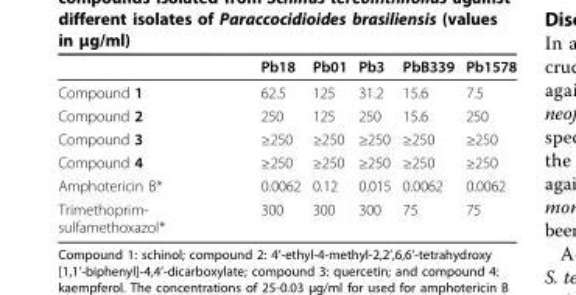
<table><thead><tr><td></td><td>Pb18</td><td>Pb01</td><td>Pb3</td><td>PbB339</td><td>Pb1578</td></tr></thead><tbody><tr><td>Compound 1</td><td>62.5</td><td>125</td><td>31.2</td><td>15.6</td><td>7.5</td></tr><tr><td>Compound 2</td><td>250</td><td>125</td><td>250</td><td>15.6</td><td>250</td></tr><tr><td>Compound 3</td><td>≥250</td><td>≥250</td><td>≥250</td><td>≥250</td><td>≥250</td></tr><tr><td>Compound 4</td><td>≥250</td><td>≥250</td><td>≥250</td><td>≥250</td><td>≥250</td></tr><tr><td>Amphotericin B*</td><td>0.0062</td><td>0.12</td><td>0.015</td><td>0.0062</td><td>0.0062</td></tr><tr><td>Trimethoprim- sulfamethoxazol*</td><td>300</td><td>300</td><td>300</td><td>75</td><td>75</td></tr></tbody></table>